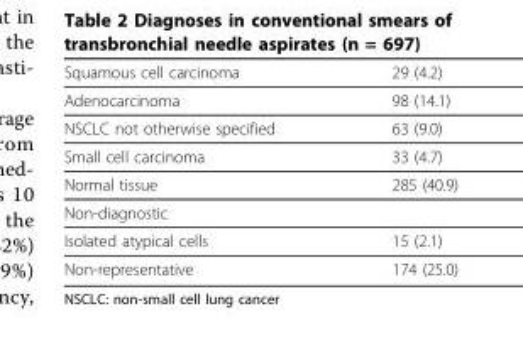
<table><thead><tr><td>Squamous cell carcinoma</td><td>29 (4.2)</td></tr></thead><tbody><tr><td>Adenocarcinoma</td><td>98 (14.1)</td></tr><tr><td>NSCLC not otherwise specified</td><td>63 (9.0)</td></tr><tr><td>Small cell carcinoma</td><td>33 (4.7)</td></tr><tr><td>Normal tissue</td><td>285 (40.9)</td></tr><tr><td colspan="2">Non-diagnostic</td></tr><tr><td>Isolated atypical cells</td><td>15 (2.1)</td></tr><tr><td>Non-representative</td><td>174 (25.0)</td></tr></tbody></table>